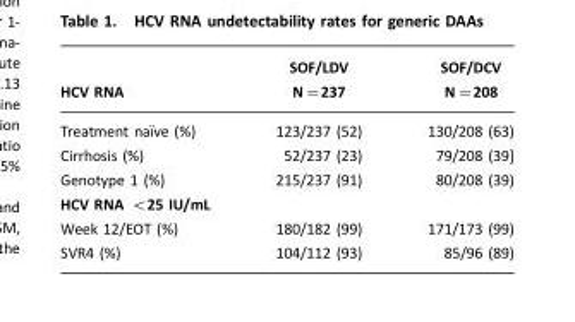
<table><thead><tr><td rowspan="2">HCV RNA</td><td rowspan="2">SOF/LDV N=237</td><td rowspan="2">SOF/DCV N=208</td></tr><tr></tr></thead><tbody><tr><td>Treatment naı¨ve (%)</td><td>123/237 (52)</td><td>130/208 (63)</td></tr><tr><td>Cirrhosis (%)</td><td>52/237 (23)</td><td>79/208 (39]</td></tr><tr><td>Genotype 1 (%)</td><td>215/237 (91)</td><td>80/208 (39)</td></tr><tr><td colspan="3">HCV RNA &lt;25 IU/mL</td></tr><tr><td>Week 12/EOT (%)</td><td>180/182 (99)</td><td>171/173 (99)</td></tr><tr><td>SVR4 (%)</td><td>104/112 (93)</td><td>85/96 (89)</td></tr></tbody></table>